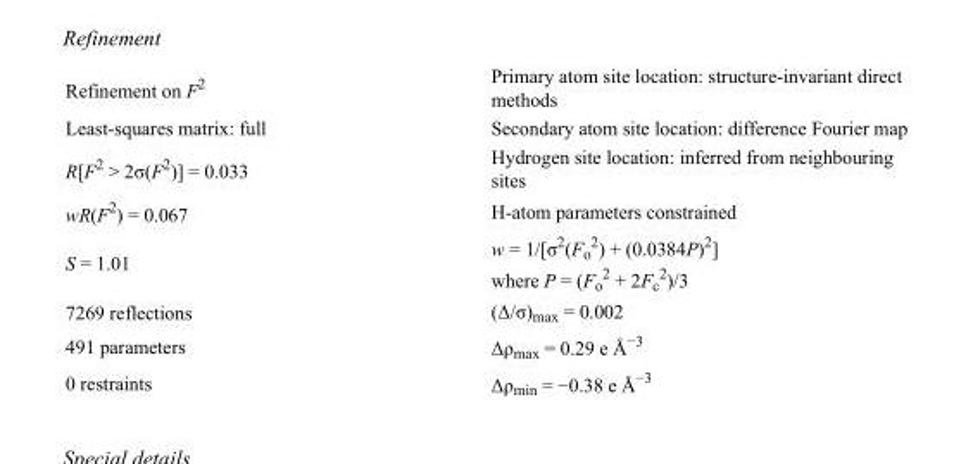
<table><tbody><tr><td>Refinement on F<sup>2</sup></td><td>Primary atom site location: structure-invariant direct methods</td></tr><tr><td>Least-squares matrix: full</td><td>Secondary atom site location: difference Fourier map</td></tr><tr><td>R[F<sup>2</sup> &gt; 2σ(F<sup>2</sup>)] = 0.033</td><td>Hydrogen site location: inferred from neighbouring sites</td></tr><tr><td>wR(F<sup>2</sup>) = 0.067</td><td>H-atom parameters constrained</td></tr><tr><td>S = 1.01</td><td>w = 1/[σ<sup>2</sup>(F<sub>o</sub> <sup>2</sup>) + (0.0384P)<sup>2</sup>] where P = (F<sub>o</sub> <sup>2</sup> + 2F<sub>c</sub> <sup>2</sup>)/3</td></tr><tr><td>7269 reflections</td><td>(Δ/σ)<sub>max</sub> = 0.002</td></tr><tr><td>491 parameters</td><td>Δρ<sub>max</sub> = 0.29 e Å<sup>−3</sup></td></tr><tr><td>0 restraints</td><td>Δρ<sub>min</sub> = −0.38 e Å<sup>−3</sup></td></tr></tbody></table>